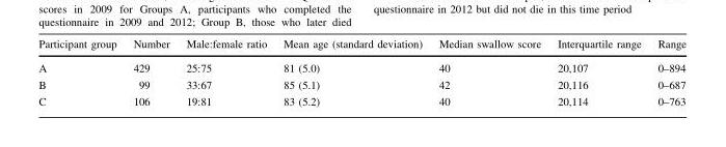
<table><thead><tr><td>Participant group</td><td>Number</td><td>Male:female ratio</td><td>Mean age (standard deviation)</td><td>Median swallow score</td><td>Interquartile range</td><td>Range</td></tr></thead><tbody><tr><td>A</td><td>429</td><td>25:75</td><td>81 (5.0)</td><td>40</td><td>20,107</td><td>0–894</td></tr><tr><td>B</td><td>99</td><td>33:67</td><td>85 (5.1)</td><td>42</td><td>20,116</td><td>0–687</td></tr><tr><td>C</td><td>106</td><td>19:81</td><td>83 (5.2)</td><td>40</td><td>20,114</td><td>0–763</td></tr></tbody></table>